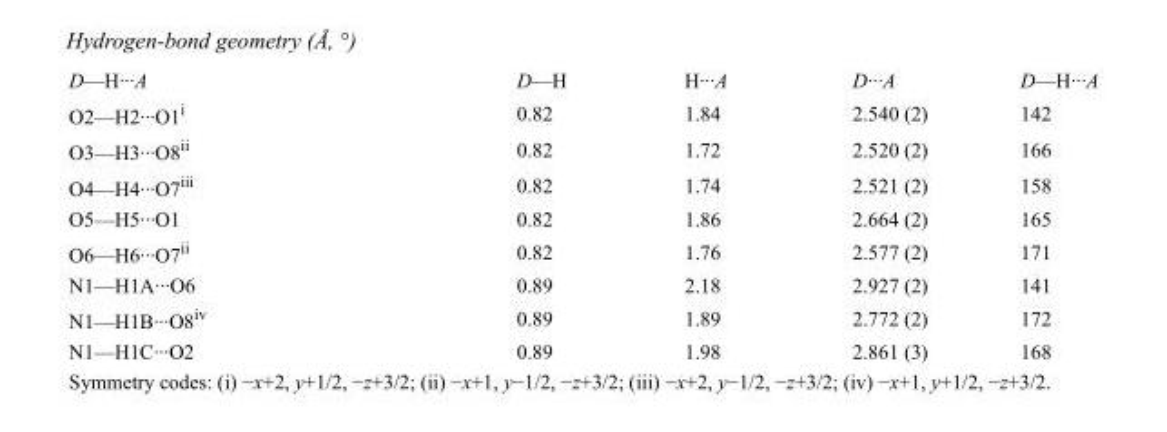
<table><tbody><tr><td>D—H···A</td><td>D—H</td><td>H···A</td><td>D···A</td><td>D—H···A</td></tr><tr><td>O2—H2···O1<sup>i</sup></td><td>0.82</td><td>1.84</td><td>2.540 (2)</td><td>142</td></tr><tr><td>O3—H3···O8<sup>ii</sup></td><td>0.82</td><td>1.72</td><td>2.520 (2)</td><td>166</td></tr><tr><td>O4—H4···O7<sup>iii</sup></td><td>0.82</td><td>1.74</td><td>2.521 (2)</td><td>158</td></tr><tr><td>O5—H5···O1</td><td>0.82</td><td>1.86</td><td>2.664 (2)</td><td>165</td></tr><tr><td>O6—H6···O7<sup>ii</sup></td><td>0.82</td><td>1.76</td><td>2.577 (2)</td><td>171</td></tr><tr><td>N1—H1A···O6</td><td>0.89</td><td>2.18</td><td>2.927 (2)</td><td>141</td></tr><tr><td>N1—H1B···O8<sup>iv</sup></td><td>0.89</td><td>1.89</td><td>2.772 (2)</td><td>172</td></tr><tr><td>N1—H1C···O2</td><td>0.89</td><td>1.98</td><td>2.861 (3)</td><td>168</td></tr></tbody></table>